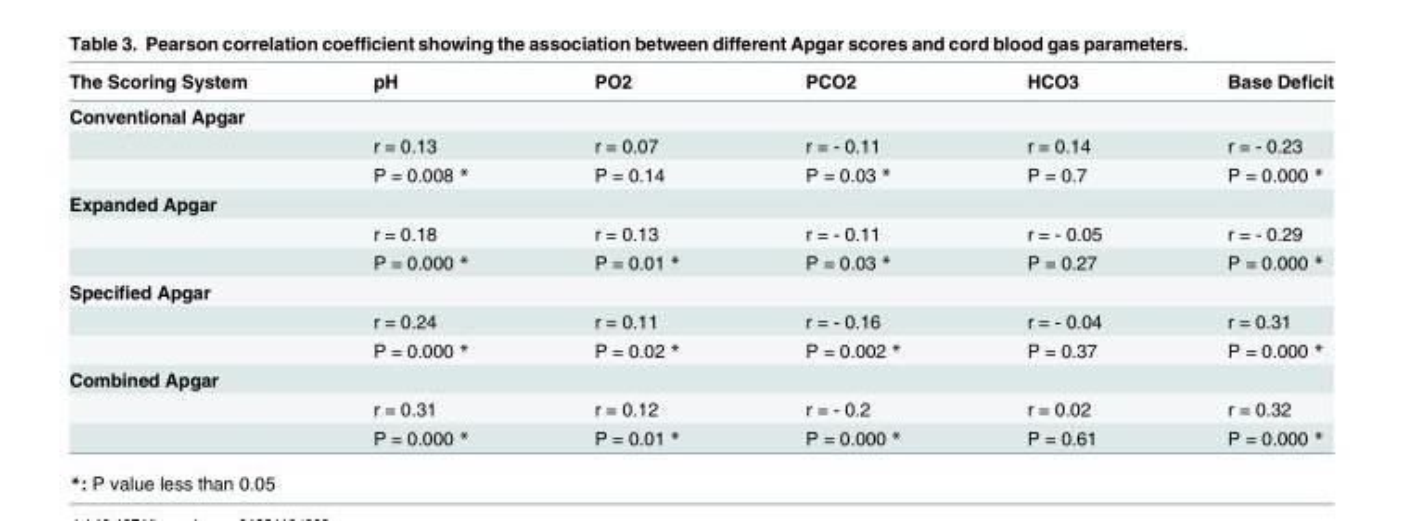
<table><thead><tr><td>The Scoring System</td><td>pH</td><td>PO2</td><td>PCO2</td><td>HCO3</td><td>Base Deficit</td></tr></thead><tbody><tr><td colspan="6">Conventional Apgar</td></tr><tr><td></td><td>r = 0.13</td><td>r = 0.07</td><td>r = - 0.11</td><td>r = 0.14</td><td>r = - 0.23</td></tr><tr><td></td><td>P = 0.008 *</td><td>P = 0.14</td><td>P = 0.03 *</td><td>P = 0.7</td><td>P = 0.000 *</td></tr><tr><td colspan="6">Expanded Apgar</td></tr><tr><td></td><td>r = 0.18</td><td>r = 0.13</td><td>r = - 0.11</td><td>r = - 0.05</td><td>r = - 0.29</td></tr><tr><td></td><td>P = 0.000 *</td><td>P = 0.01 *</td><td>P = 0.03 *</td><td>P = 0.27</td><td>P = 0.000 *</td></tr><tr><td colspan="6">Specified Apgar</td></tr><tr><td></td><td>r = 0.24</td><td>r = 0.11</td><td>r = - 0.16</td><td>r = - 0.04</td><td>r = 0.31</td></tr><tr><td></td><td>P = 0.000 *</td><td>P = 0.02 *</td><td>P = 0.002 *</td><td>P = 0.37</td><td>P = 0.000 *</td></tr><tr><td colspan="6">Combined Apgar</td></tr><tr><td></td><td>r = 0.31</td><td>r = 0.12</td><td>r = - 0.2</td><td>r = 0.02</td><td>r = 0.32</td></tr><tr><td></td><td>P = 0.000 *</td><td>P = 0.01 *</td><td>P = 0.000 *</td><td>P = 0.61</td><td>P = 0.000 *</td></tr></tbody></table>